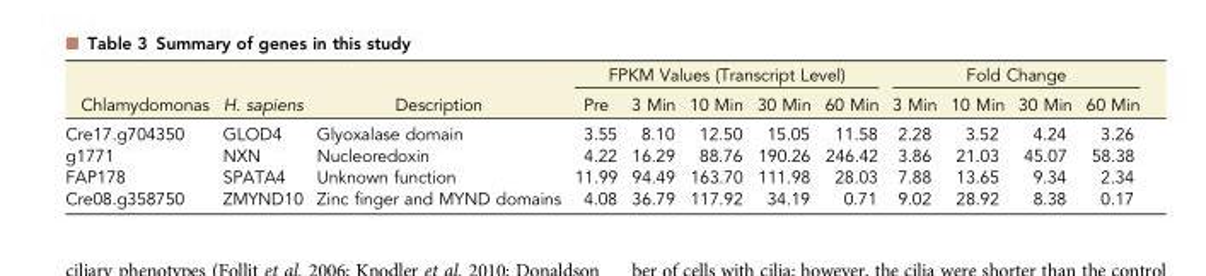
<table><thead><tr><td rowspan="2">Chlamydomonas</td><td rowspan="2">H. sapiens</td><td rowspan="2">Description</td><td colspan="5">FPKM Values (Transcript Level)</td><td colspan="4">Fold Change</td></tr><tr><td>Pre</td><td>3 Min</td><td>10 Min</td><td>30 Min</td><td>60 Min</td><td>3 Min</td><td>10 Min</td><td>30 Min</td><td>60 Min</td></tr></thead><tbody><tr><td>Cre17.g704350</td><td>GLOD4</td><td>Glyoxalase domain</td><td>3.55</td><td>8.10</td><td>12.50</td><td>15.05</td><td>11.58</td><td>2.28</td><td>3.52</td><td>4.24</td><td>3.26</td></tr><tr><td>g1771</td><td>NXN</td><td>Nucleoredoxin</td><td>4.22</td><td>16.29</td><td>88.76</td><td>190.26</td><td>246.42</td><td>3.86</td><td>21.03</td><td>45.07</td><td>58.38</td></tr><tr><td>FAP178</td><td>SPATA4</td><td>Unknown function</td><td>11.99</td><td>94.49</td><td>163.70</td><td>111.98</td><td>28.03</td><td>7.88</td><td>13.65</td><td>9.34</td><td>2.34</td></tr><tr><td>Cre08.g358750</td><td>ZMYND10</td><td>Zinc finger and MYND domains</td><td>4.08</td><td>36.79</td><td>117.92</td><td>34.19</td><td>0.71</td><td>9.02</td><td>28.92</td><td>8.38</td><td>0.17</td></tr></tbody></table>